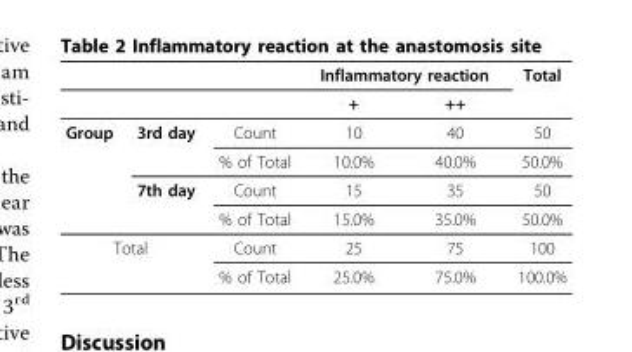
<table><thead><tr><td rowspan="2"></td><td rowspan="2"></td><td rowspan="2"></td><td colspan="2">Inflammatory reaction</td><td rowspan="2">Total</td></tr><tr><td>+</td><td>++</td></tr></thead><tbody><tr><td rowspan="4">Group</td><td>3rd day</td><td>Count</td><td>10</td><td>40</td><td>50</td></tr><tr><td></td><td>% of Total</td><td>10.0%</td><td>40.0%</td><td>50.0%</td></tr><tr><td>7th day</td><td>Count</td><td>15</td><td>35</td><td>50</td></tr><tr><td></td><td>% of Total</td><td>15.0%</td><td>35.0%</td><td>50.0%</td></tr><tr><td colspan="2">Total</td><td>Count</td><td>25</td><td>75</td><td>100</td></tr><tr><td></td><td></td><td>% of Total</td><td>25.0%</td><td>75.0%</td><td>100.0%</td></tr></tbody></table>